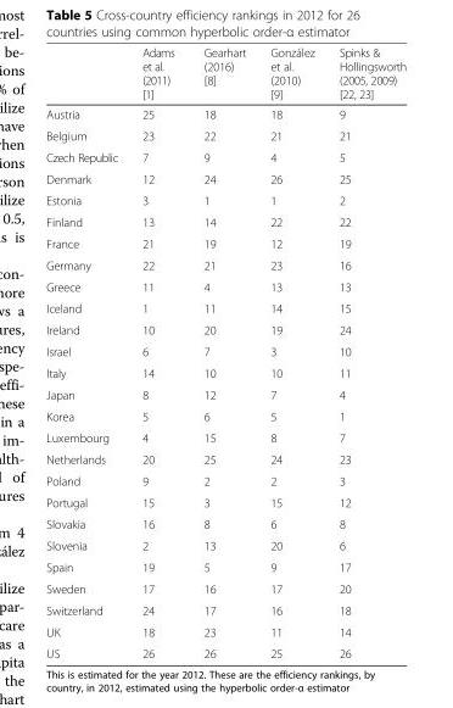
<table><thead><tr><td></td><td>Adams et al. (2011) [1]</td><td>Gearhart (2016) [8]</td><td>González et al. (2010) [9]</td><td>Spinks &amp; Hollingsworth (2005, 2009) [22, 23]</td></tr></thead><tbody><tr><td>Austria</td><td>25</td><td>18</td><td>18</td><td>9</td></tr><tr><td>Belgium</td><td>23</td><td>22</td><td>21</td><td>21</td></tr><tr><td>Czech Republic</td><td>7</td><td>9</td><td>4</td><td>5</td></tr><tr><td>Denmark</td><td>12</td><td>24</td><td>26</td><td>25</td></tr><tr><td>Estonia</td><td>3</td><td>1</td><td>1</td><td>2</td></tr><tr><td>Finland</td><td>13</td><td>14</td><td>22</td><td>22</td></tr><tr><td>France</td><td>21</td><td>19</td><td>12</td><td>19</td></tr><tr><td>Germany</td><td>22</td><td>21</td><td>23</td><td>16</td></tr><tr><td>Greece</td><td>11</td><td>4</td><td>13</td><td>13</td></tr><tr><td>Iceland</td><td>1</td><td>11</td><td>14</td><td>15</td></tr><tr><td>Ireland</td><td>10</td><td>20</td><td>19</td><td>24</td></tr><tr><td>Israel</td><td>6</td><td>7</td><td>3</td><td>10</td></tr><tr><td>Italy</td><td>14</td><td>10</td><td>10</td><td>11</td></tr><tr><td>Japan</td><td>8</td><td>12</td><td>7</td><td>4</td></tr><tr><td>Korea</td><td>5</td><td>6</td><td>5</td><td>1</td></tr><tr><td>Luxembourg</td><td>4</td><td>15</td><td>8</td><td>7</td></tr><tr><td>Netherlands</td><td>20</td><td>25</td><td>24</td><td>23</td></tr><tr><td>Poland</td><td>9</td><td>2</td><td>2</td><td>3</td></tr><tr><td>Portugal</td><td>15</td><td>3</td><td>15</td><td>12</td></tr><tr><td>Slovakia</td><td>16</td><td>8</td><td>6</td><td>8</td></tr><tr><td>Slovenia</td><td>2</td><td>13</td><td>20</td><td>6</td></tr><tr><td>Spain</td><td>19</td><td>5</td><td>9</td><td>17</td></tr><tr><td>Sweden</td><td>17</td><td>16</td><td>17</td><td>20</td></tr><tr><td>Switzerland</td><td>24</td><td>17</td><td>16</td><td>18</td></tr><tr><td>UK</td><td>18</td><td>23</td><td>11</td><td>14</td></tr><tr><td>US</td><td>26</td><td>26</td><td>25</td><td>26</td></tr></tbody></table>